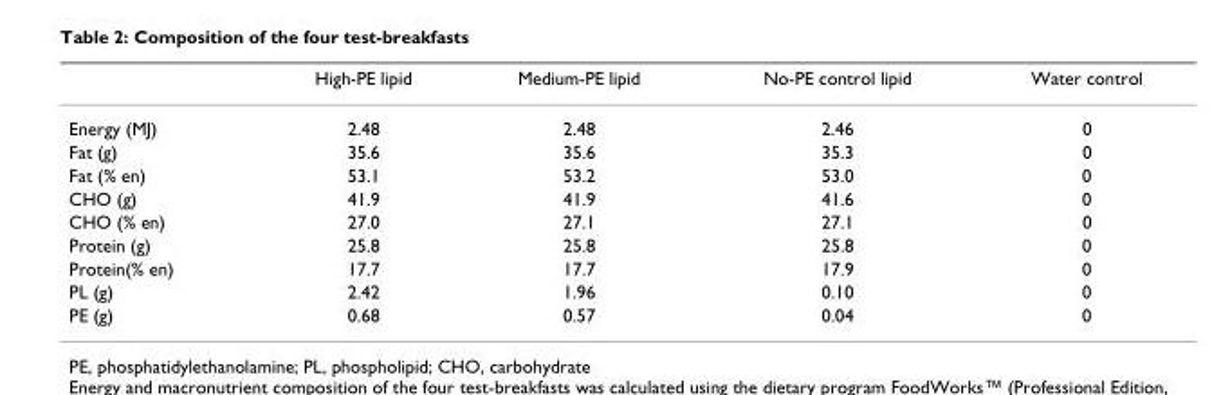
<table><thead><tr><td></td><td>High-PE lipid</td><td>Medium-PE lipid</td><td>No-PE control lipid</td><td>Water control</td></tr></thead><tbody><tr><td>Energy (MJ)</td><td>2.48</td><td>2.48</td><td>2.46</td><td>0</td></tr><tr><td>Fat (g)</td><td>35.6</td><td>35.6</td><td>35.3</td><td>0</td></tr><tr><td>Fat (% en)</td><td>53.1</td><td>53.2</td><td>53.0</td><td>0</td></tr><tr><td>CHO (g)</td><td>41.9</td><td>41.9</td><td>41.6</td><td>0</td></tr><tr><td>CHO (% en)</td><td>27.0</td><td>27.1</td><td>27.1</td><td>0</td></tr><tr><td>Protein (g)</td><td>25.8</td><td>25.8</td><td>25.8</td><td>0</td></tr><tr><td>Protein(% en)</td><td>17.7</td><td>17.7</td><td>17.9</td><td>0</td></tr><tr><td>PL (g)</td><td>2.42</td><td>1.96</td><td>0.10</td><td>0</td></tr><tr><td>PE (g)</td><td>0.68</td><td>0.57</td><td>0.04</td><td>0</td></tr></tbody></table>